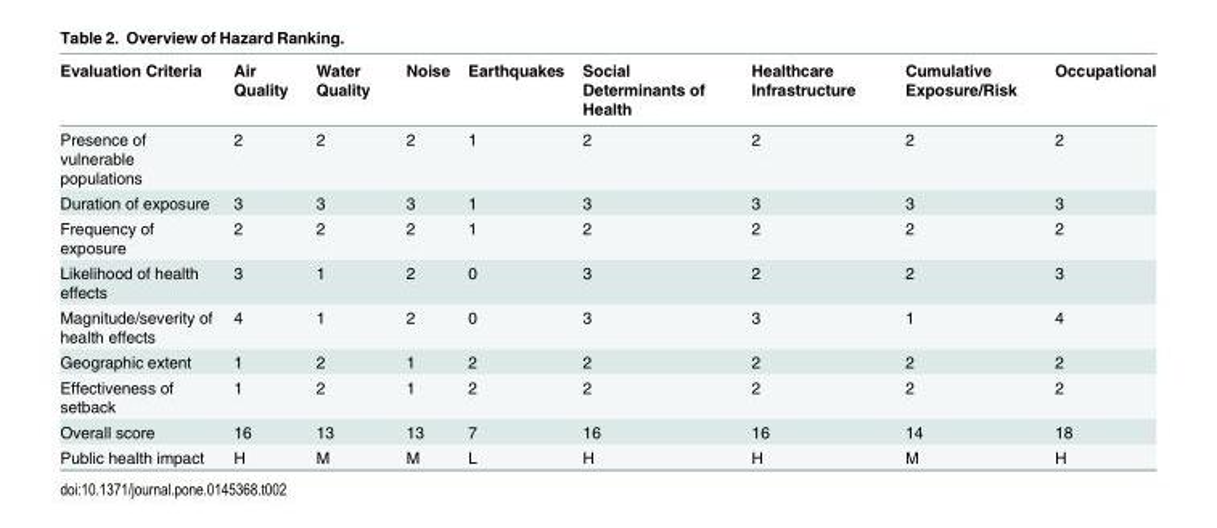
<table><thead><tr><td>Evaluation Criteria</td><td>Air Quality</td><td>Water Quality</td><td>Noise</td><td>Earthquakes</td><td>Social Determinants of Health</td><td>Healthcare Infrastructure</td><td>Cumulative Exposure/Risk</td><td>Occupational</td></tr></thead><tbody><tr><td>Presence of vulnerable populations</td><td>2</td><td>2</td><td>2</td><td>1</td><td>2</td><td>2</td><td>2</td><td>2</td></tr><tr><td>Duration of exposure</td><td>3</td><td>3</td><td>3</td><td>1</td><td>3</td><td>3</td><td>3</td><td>3</td></tr><tr><td>Frequency of exposure</td><td>2</td><td>2</td><td>2</td><td>1</td><td>2</td><td>2</td><td>2</td><td>2</td></tr><tr><td>Likelihood of health effects</td><td>3</td><td>1</td><td>2</td><td>0</td><td>3</td><td>2</td><td>2</td><td>3</td></tr><tr><td>Magnitude/severity of health effects</td><td>4</td><td>1</td><td>2</td><td>0</td><td>3</td><td>3</td><td>1</td><td>4</td></tr><tr><td>Geographic extent</td><td>1</td><td>2</td><td>1</td><td>2</td><td>2</td><td>2</td><td>2</td><td>2</td></tr><tr><td>Effectiveness of setback</td><td>1</td><td>2</td><td>1</td><td>2</td><td>2</td><td>2</td><td>2</td><td>2</td></tr><tr><td>Overall score</td><td>16</td><td>13</td><td>13</td><td>7</td><td>16</td><td>16</td><td>14</td><td>18</td></tr><tr><td>Public health impact</td><td>H</td><td>M</td><td>M</td><td>L</td><td>H</td><td>H</td><td>M</td><td>H</td></tr></tbody></table>